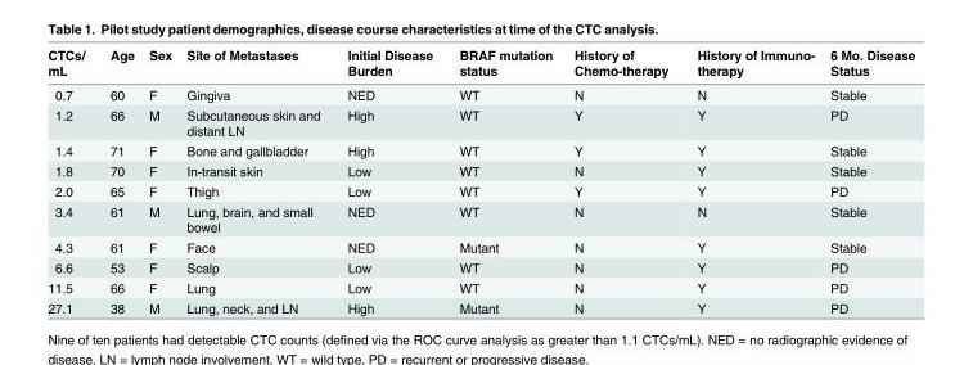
<table><thead><tr><td>CTCs/ mL</td><td>Age</td><td>Sex</td><td>Site of Metastases</td><td>Initial Disease Burden</td><td>BRAF mutation status</td><td>History of Chemo-therapy</td><td>History of Immuno- therapy</td><td>6 Mo. Disease Status</td></tr></thead><tbody><tr><td>0.7</td><td>60</td><td>F</td><td>Gingiva</td><td>NED</td><td>WT</td><td>N</td><td>N</td><td>Stable</td></tr><tr><td>1.2</td><td>66</td><td>M</td><td>Subcutaneous skin and distant LN</td><td>High</td><td>WT</td><td>Y</td><td>Y</td><td>PD</td></tr><tr><td>1.4</td><td>71</td><td>F</td><td>Bone and gallbladder</td><td>High</td><td>WT</td><td>Y</td><td>Y</td><td>Stable</td></tr><tr><td>1.8</td><td>70</td><td>F</td><td>In-transit skin</td><td>Low</td><td>WT</td><td>N</td><td>Y</td><td>Stable</td></tr><tr><td>2.0</td><td>65</td><td>F</td><td>Thigh</td><td>Low</td><td>WT</td><td>Y</td><td>Y</td><td>PD</td></tr><tr><td>3.4</td><td>61</td><td>M</td><td>Lung, brain, and small bowel</td><td>NED</td><td>WT</td><td>N</td><td>N</td><td>Stable</td></tr><tr><td>4.3</td><td>61</td><td>F</td><td>Face</td><td>NED</td><td>Mutant</td><td>N</td><td>Y</td><td>Stable</td></tr><tr><td>6.6</td><td>53</td><td>F</td><td>Scalp</td><td>Low</td><td>WT</td><td>N</td><td>Y</td><td>PD</td></tr><tr><td>11.5</td><td>66</td><td>F</td><td>Lung</td><td>Low</td><td>WT</td><td>N</td><td>Y</td><td>PD</td></tr><tr><td>27.1</td><td>38</td><td>M</td><td>Lung, neck, and LN</td><td>High</td><td>Mutant</td><td>N</td><td>Y</td><td>PD</td></tr></tbody></table>